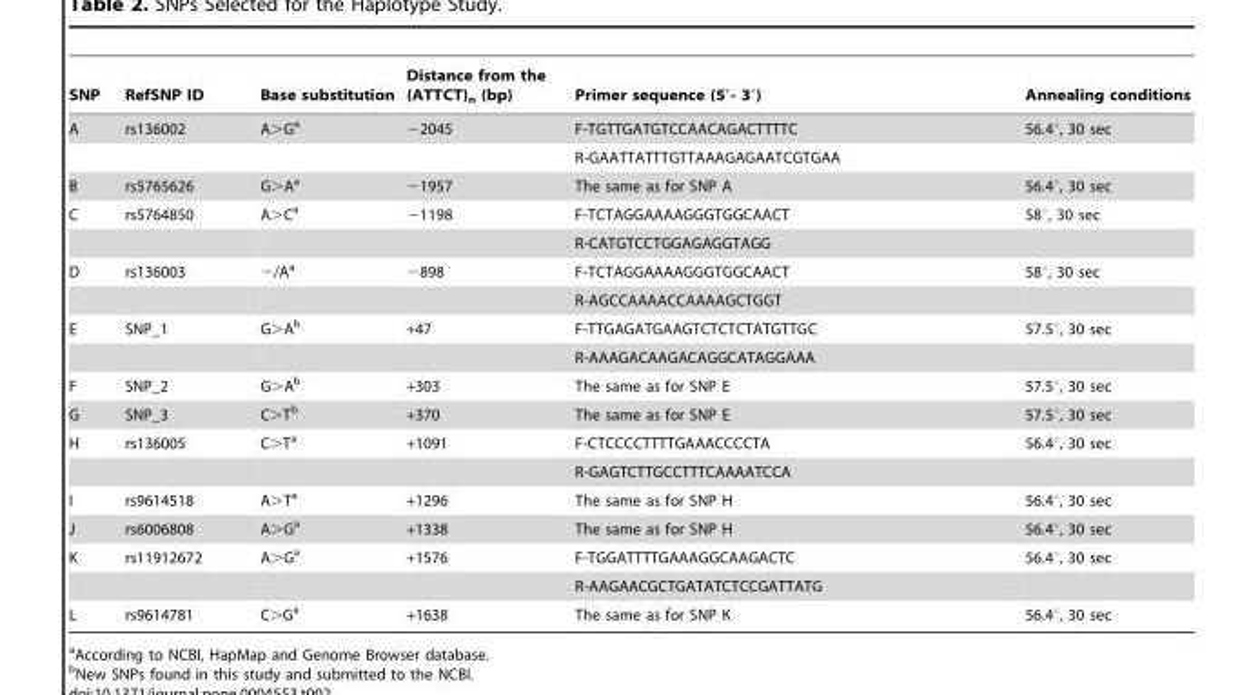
<table><thead><tr><td>SNP</td><td>RefSNP ID</td><td>Base substitution</td><td>Distance from the (ATTCT)<sub>n</sub> (bp)</td><td>Primer sequence (5′- 3′)</td><td>Annealing conditions</td></tr></thead><tbody><tr><td rowspan="2">A</td><td>rs136002</td><td>A&gt;G<sup>a</sup></td><td>−2045</td><td>F-TGTTGATGTCCAACAGACTTTTC</td><td>56.4°, 30 sec</td></tr><tr><td></td><td></td><td></td><td>R-GAATTATTTGTTAAAGAGAATCGTGAA</td><td></td></tr><tr><td>B</td><td>rs5765626</td><td>G&gt;A<sup>a</sup></td><td>−1957</td><td>The same as for SNP A</td><td>56.4°, 30 sec</td></tr><tr><td rowspan="2">C</td><td>rs5764850</td><td>A&gt;C<sup>a</sup></td><td>−1198</td><td>F-TCTAGGAAAAGGGTGGCAACT</td><td>58°, 30 sec</td></tr><tr><td></td><td></td><td></td><td>R-CATGTCCTGGAGAGGTAGG</td><td></td></tr><tr><td rowspan="2">D</td><td>rs136003</td><td>−/A<sup>a</sup></td><td>−898</td><td>F-TCTAGGAAAAGGGTGGCAACT</td><td>58°, 30 sec</td></tr><tr><td></td><td></td><td></td><td>R-AGCCAAAACCAAAAGCTGGT</td><td></td></tr><tr><td rowspan="2">E</td><td>SNP_1</td><td>G&gt;A<sup>b</sup></td><td>+47</td><td>F-TTGAGATGAAGTCTCTCTATGTTGC</td><td>57.5°, 30 sec</td></tr><tr><td></td><td></td><td></td><td>R-AAAGACAAGACAGGCATAGGAAA</td><td></td></tr><tr><td>F</td><td>SNP_2</td><td>G&gt;A<sup>b</sup></td><td>+303</td><td>The same as for SNP E</td><td>57.5°, 30 sec</td></tr><tr><td>G</td><td>SNP_3</td><td>C&gt;T<sup>b</sup></td><td>+370</td><td>The same as for SNP E</td><td>57.5°, 30 sec</td></tr><tr><td rowspan="2">H</td><td>rs136005</td><td>C&gt;T<sup>a</sup></td><td>+1091</td><td>F-CTCCCCTTTTGAAACCCCTA</td><td>56.4°, 30 sec</td></tr><tr><td></td><td></td><td></td><td>R-GAGTCTTGCCTTTCAAAATCCA</td><td></td></tr><tr><td>I</td><td>rs9614518</td><td>A&gt;T<sup>a</sup></td><td>+1296</td><td>The same as for SNP H</td><td>56.4°, 30 sec</td></tr><tr><td>J</td><td>rs6006808</td><td>A&gt;G<sup>a</sup></td><td>+1338</td><td>The same as for SNP H</td><td>56.4°, 30 sec</td></tr><tr><td rowspan="2">K</td><td>rs11912672</td><td>A&gt;G<sup>a</sup></td><td>+1576</td><td>F-TGGATTTTGAAAGGCAAGACTC</td><td>56.4°, 30 sec</td></tr><tr><td></td><td></td><td></td><td>R-AAGAACGCTGATATCTCCGATTATG</td><td></td></tr><tr><td>L</td><td>rs9614781</td><td>C&gt;G<sup>a</sup></td><td>+1638</td><td>The same as for SNP K</td><td>56.4°, 30 sec</td></tr></tbody></table>